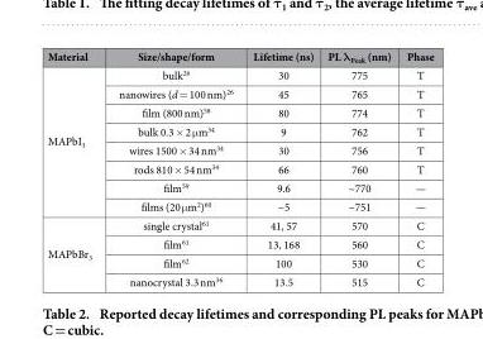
<table><thead><tr><td>Material</td><td>Size/shape/form</td><td>Lifetime (ns)</td><td>PL λ<sub>Peak</sub> (nm)</td><td>Phase</td></tr></thead><tbody><tr><td rowspan="8">MAPbI<sub>3</sub></td><td>bulk<sup>26</sup></td><td>30</td><td>775</td><td>T</td></tr><tr><td>nanowires (d = 100 nm)<sup>26</sup></td><td>45</td><td>765</td><td>T</td></tr><tr><td>film (800 nm)<sup>58</sup></td><td>80</td><td>774</td><td>T</td></tr><tr><td>bulk 0.3 × 2 μ m<sup>34</sup></td><td>9</td><td>762</td><td>T</td></tr><tr><td>wires 1500 × 34 nm<sup>34</sup></td><td>30</td><td>756</td><td>T</td></tr><tr><td>rods 810 × 54 nm<sup>34</sup></td><td>66</td><td>760</td><td>T</td></tr><tr><td>film<sup>59</sup></td><td>9.6</td><td>~770</td><td>—</td></tr><tr><td>films (20 μ m<sup>2</sup>)<sup>60</sup></td><td>~5</td><td>~751</td><td>—</td></tr><tr><td rowspan="4">MAPbBr<sub>3</sub></td><td>single crystal<sup>61</sup></td><td>41, 57</td><td>570</td><td>C</td></tr><tr><td>film<sup>61</sup></td><td>13, 168</td><td>560</td><td>C</td></tr><tr><td>film<sup>62</sup></td><td>100</td><td>530</td><td>C</td></tr><tr><td>nanocrystal 3.3 nm<sup>36</sup></td><td>13.5</td><td>515</td><td>C</td></tr></tbody></table>